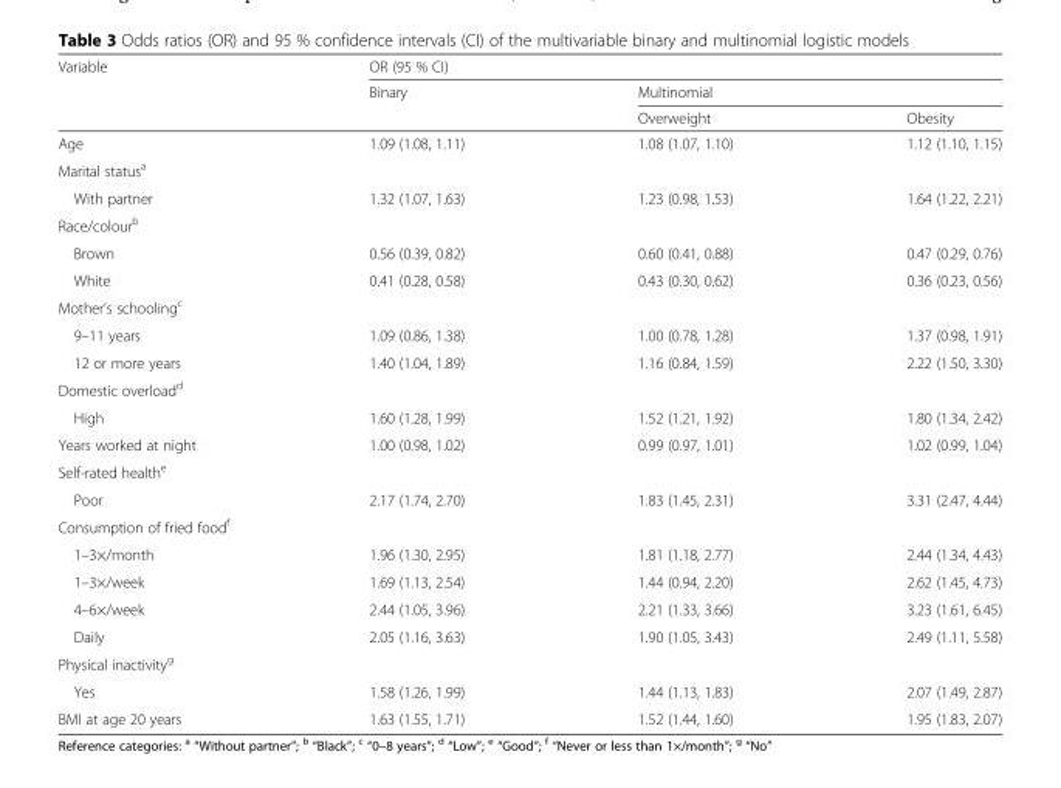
<table><thead><tr><td rowspan="3">Variable</td><td colspan="3">OR (95 % CI)</td></tr><tr><td rowspan="2">Binary</td><td colspan="2">Multinomial</td></tr><tr><td>Overweight</td><td>Obesity</td></tr></thead><tbody><tr><td>Age</td><td>1.09 (1.08, 1.11)</td><td>1.08 (1.07, 1.10)</td><td>1.12 (1.10, 1.15)</td></tr><tr><td colspan="4">Marital status<sup>a</sup></td></tr><tr><td>With partner</td><td>1.32 (1.07, 1.63)</td><td>1.23 (0.98, 1.53)</td><td>1.64 (1.22, 2.21)</td></tr><tr><td colspan="4">Race/colour<sup>b</sup></td></tr><tr><td>Brown</td><td>0.56 (0.39, 0.82)</td><td>0.60 (0.41, 0.88)</td><td>0.47 (0.29, 0.76)</td></tr><tr><td>White</td><td>0.41 (0.28, 0.58)</td><td>0.43 (0.30, 0.62)</td><td>0.36 (0.23, 0.56)</td></tr><tr><td colspan="4">Mother’s schooling<sup>c</sup></td></tr><tr><td>9–11 years</td><td>1.09 (0.86, 1.38)</td><td>1.00 (0.78, 1.28)</td><td>1.37 (0.98, 1.91)</td></tr><tr><td>12 or more years</td><td>1.40 (1.04, 1.89)</td><td>1.16 (0.84, 1.59)</td><td>2.22 (1.50, 3.30)</td></tr><tr><td colspan="4">Domestic overload<sup>d</sup></td></tr><tr><td>High</td><td>1.60 (1.28, 1.99)</td><td>1.52 (1.21, 1.92)</td><td>1.80 (1.34, 2.42)</td></tr><tr><td>Years worked at night</td><td>1.00 (0.98, 1.02)</td><td>0.99 (0.97, 1.01)</td><td>1.02 (0.99, 1.04)</td></tr><tr><td colspan="4">Self-rated health<sup>e</sup></td></tr><tr><td>Poor</td><td>2.17 (1.74, 2.70)</td><td>1.83 (1.45, 2.31)</td><td>3.31 (2.47, 4.44)</td></tr><tr><td colspan="4">Consumption of fried food<sup>f</sup></td></tr><tr><td>1–3×/month</td><td>1.96 (1.30, 2.95)</td><td>1.81 (1.18, 2.77)</td><td>2.44 (1.34, 4.43)</td></tr><tr><td>1–3×/week</td><td>1.69 (1.13, 2.54)</td><td>1.44 (0.94, 2.20)</td><td>2.62 (1.45, 4.73)</td></tr><tr><td>4–6×/week</td><td>2.44 (1.05, 3.96)</td><td>2.21 (1.33, 3.66)</td><td>3.23 (1.61, 6.45)</td></tr><tr><td>Daily</td><td>2.05 (1.16, 3.63)</td><td>1.90 (1.05, 3.43)</td><td>2.49 (1.11, 5.58)</td></tr><tr><td colspan="4">Physical inactivity<sup>g</sup></td></tr><tr><td>Yes</td><td>1.58 (1.26, 1.99)</td><td>1.44 (1.13, 1.83)</td><td>2.07 (1.49, 2.87)</td></tr><tr><td>BMI at age 20 years</td><td>1.63 (1.55, 1.71)</td><td>1.52 (1.44, 1.60)</td><td>1.95 (1.83, 2.07)</td></tr></tbody></table>